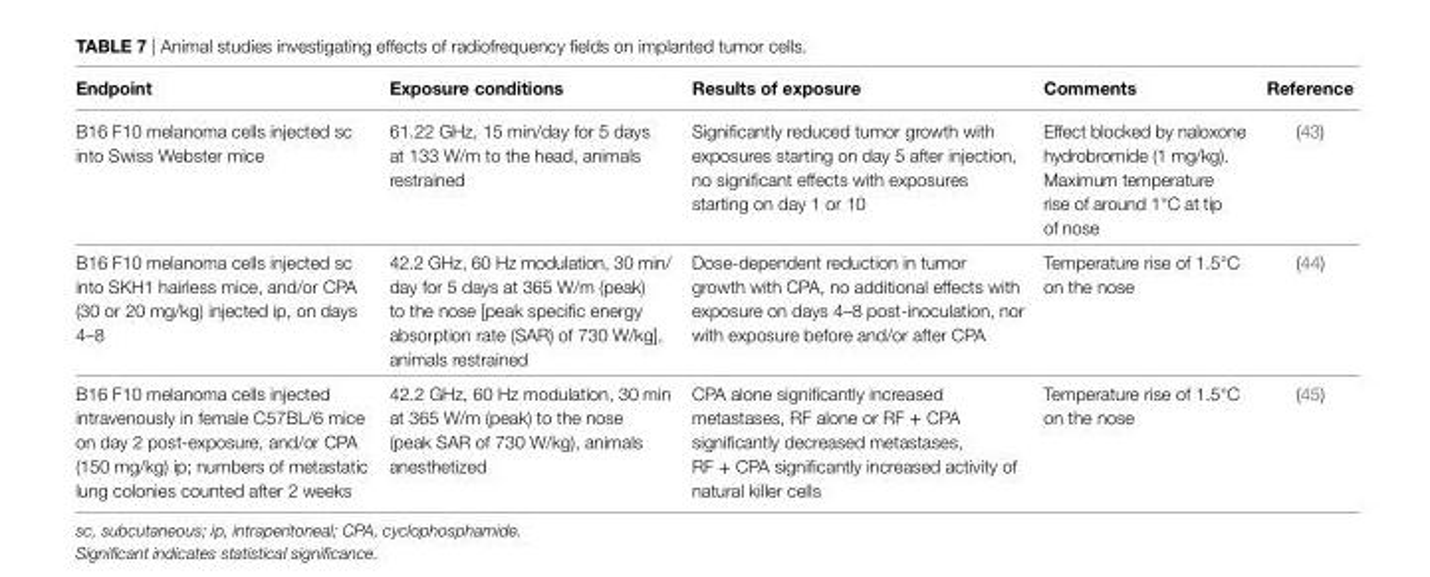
<table><thead><tr><td>endpoint</td><td>exposure conditions</td><td>Results of exposure</td><td>Comments</td><td>Reference</td></tr></thead><tbody><tr><td>B16 F10 melanoma cells injected sc into Swiss Webster mice</td><td>61.22 GHz, 15 min/day for 5 days at 133 W/m to the head, animals restrained</td><td>Significantly reduced tumor growth with exposures starting on day 5 after injection, no significant effects with exposures starting on day 1 or 10</td><td>Effect blocked by naloxone hydrobromide (1 mg/kg). Maximum temperature rise of around 1°C at tip of nose</td><td>(43)</td></tr><tr><td>B16 F10 melanoma cells injected sc into SKH1 hairless mice, and/or CPA (30 or 20 mg/kg) injected ip, on days 4–8</td><td>42.2 GHz, 60 Hz modulation, 30 min/ day for 5 days at 365 W/m (peak) to the nose [peak specific energy absorption rate (SAR) of 730 W/kg], animals restrained</td><td>Dose-dependent reduction in tumor growth with CPA, no additional effects with exposure on days 4–8 post-inoculation, nor with exposure before and/or after CPA</td><td>Temperature rise of 1.5°C on the nose</td><td>(44)</td></tr><tr><td>B16 F10 melanoma cells injected intravenously in female C57BL/6 mice on day 2 post-exposure, and/or CPA (150 mg/kg) ip; numbers of metastatic lung colonies counted after 2 weeks</td><td>42.2 GHz, 60 Hz modulation, 30 min at 365 W/m (peak) to the nose (peak SAR of 730 W/kg), animals anesthetized</td><td>CPA alone significantly increased metastases, RF alone or RF + CPA significantly decreased metastases, RF + CPA significantly increased activity of natural killer cells</td><td>Temperature rise of 1.5°C on the nose</td><td>(45)</td></tr></tbody></table>